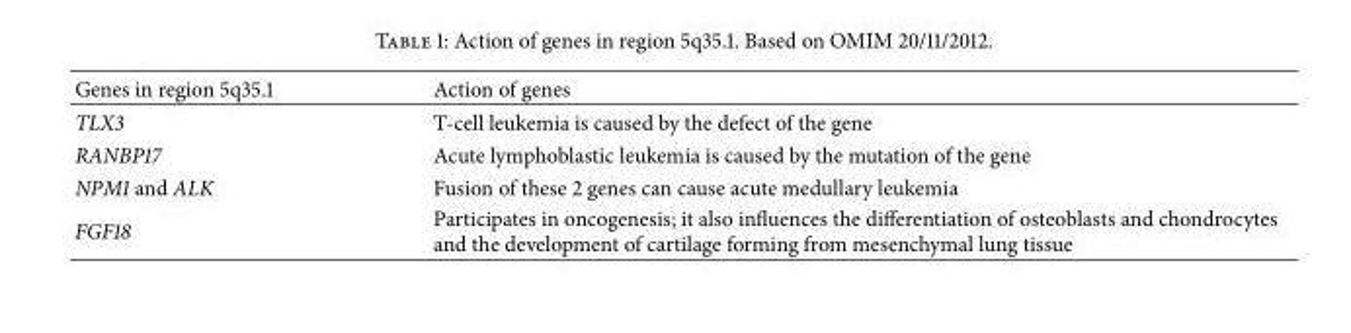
<table><thead><tr><td>Genes in region 5q35.1</td><td>Action of genes</td></tr></thead><tbody><tr><td>TLX3</td><td>T-cell leukemia is caused by the defect of the gene</td></tr><tr><td>RANBP17</td><td>Acute lymphoblastic leukemia is caused by the mutation of the gene</td></tr><tr><td>NPM1 and ALK</td><td>Fusion of these 2 genes can cause acute medullary leukemia</td></tr><tr><td>FGF18</td><td>Participates in oncogenesis; it also influences the differentiation of osteoblasts and chondrocytes and the development of cartilage forming from mesenchymal lung tissue</td></tr></tbody></table>